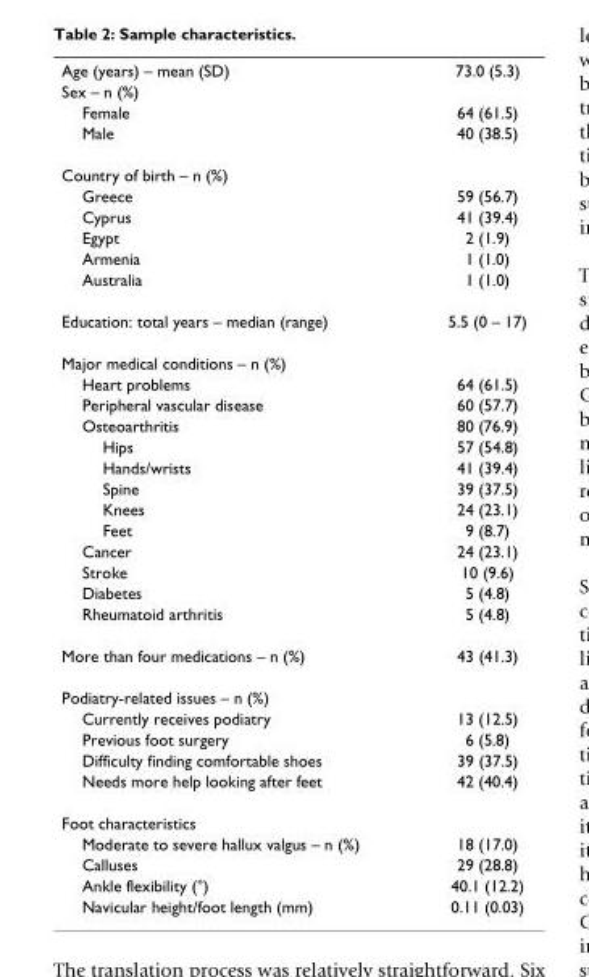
<table><tbody><tr><td>Age (years) – mean (SD)</td><td>73.0 (5.3)</td></tr><tr><td colspan="2">Sex – n (%)</td></tr><tr><td>Female</td><td>64 (61.5)</td></tr><tr><td>Male</td><td>40 (38.5)</td></tr><tr><td colspan="2">Country of birth – n (%)</td></tr><tr><td>Greece</td><td>59 (56.7)</td></tr><tr><td>Cyprus</td><td>41 (39.4)</td></tr><tr><td>Egypt</td><td>2 (1.9)</td></tr><tr><td>Armenia</td><td>1 (1.0)</td></tr><tr><td>Australia</td><td>1 (1.0)</td></tr><tr><td>Education: total years – median (range)</td><td>5.5 (0 – 17)</td></tr><tr><td colspan="2">Major medical conditions – n (%)</td></tr><tr><td>Heart problems</td><td>64 (61.5)</td></tr><tr><td>Peripheral vascular disease</td><td>60 (57.7)</td></tr><tr><td>Osteoarthritis</td><td>80 (76.9)</td></tr><tr><td>Hips</td><td>57 (54.8)</td></tr><tr><td>Hands/wrists</td><td>41 (39.4)</td></tr><tr><td>Spine</td><td>39 (37.5)</td></tr><tr><td>Knees</td><td>24 (23.1)</td></tr><tr><td>Feet</td><td>9 (8.7)</td></tr><tr><td>Cancer</td><td>24 (23.1)</td></tr><tr><td>Stroke</td><td>10 (9.6)</td></tr><tr><td>Diabetes</td><td>5 (4.8)</td></tr><tr><td>Rheumatoid arthritis</td><td>5 (4.8)</td></tr><tr><td>More than four medications – n (%)</td><td>43 (41.3)</td></tr><tr><td colspan="2">Podiatry-related issues – n (%)</td></tr><tr><td>Currently receives podiatry</td><td>13 (12.5)</td></tr><tr><td>Previous foot surgery</td><td>6 (5.8)</td></tr><tr><td>Difficulty finding comfortable shoes</td><td>39 (37.5)</td></tr><tr><td>Needs more help looking after feet</td><td>42 (40.4)</td></tr><tr><td colspan="2">Foot characteristics</td></tr><tr><td>Moderate to severe hallux valgus – n (%)</td><td>18 (17.0)</td></tr><tr><td>Calluses</td><td>29 (28.8)</td></tr><tr><td>Ankle flexibility (°)</td><td>40.1 (12.2)</td></tr><tr><td>Navicular height/foot length (mm)</td><td>0.11 (0.03)</td></tr></tbody></table>